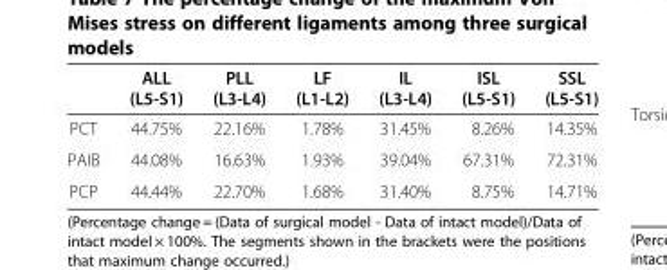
<table><thead><tr><td></td><td>ALL (L5-S1)</td><td>PLL (L3-L4)</td><td>LF (L1-L2)</td><td>IL (L3-L4)</td><td>ISL (L5-S1)</td><td>SSL (L5-S1)</td></tr></thead><tbody><tr><td>PCT</td><td>44.75%</td><td>22.16%</td><td>1.78%</td><td>31.45%</td><td>8.26%</td><td>14.35%</td></tr><tr><td>PAIB</td><td>44.08%</td><td>16.63%</td><td>1.93%</td><td>39.04%</td><td>67.31%</td><td>72.31%</td></tr><tr><td>PCP</td><td>44.44%</td><td>22.70%</td><td>1.68%</td><td>31.40%</td><td>8.75%</td><td>14.71%</td></tr></tbody></table>